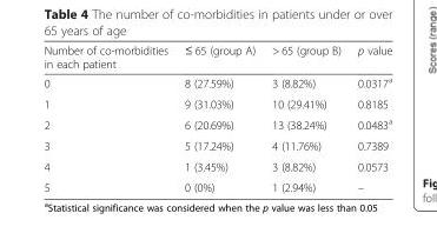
<table><thead><tr><td>Number of co-morbidities in each patient</td><td>≤ 65 (group A)</td><td>&gt; 65 (group B)</td><td>p value</td></tr></thead><tbody><tr><td>0</td><td>8 (27.59%)</td><td>3 (8.82%)</td><td>0.0317<sup>a</sup></td></tr><tr><td>1</td><td>9 (31.03%)</td><td>10 (29.41%)</td><td>0.8185</td></tr><tr><td>2</td><td>6 (20.69%)</td><td>13 (38.24%)</td><td>0.0483<sup>a</sup></td></tr><tr><td>3</td><td>5 (17.24%)</td><td>4 (11.76%)</td><td>0.7389</td></tr><tr><td>4</td><td>1 (3.45%)</td><td>3 (8.82%)</td><td>0.0573</td></tr><tr><td>5</td><td>0 (0%)</td><td>1 (2.94%)</td><td>–</td></tr></tbody></table>